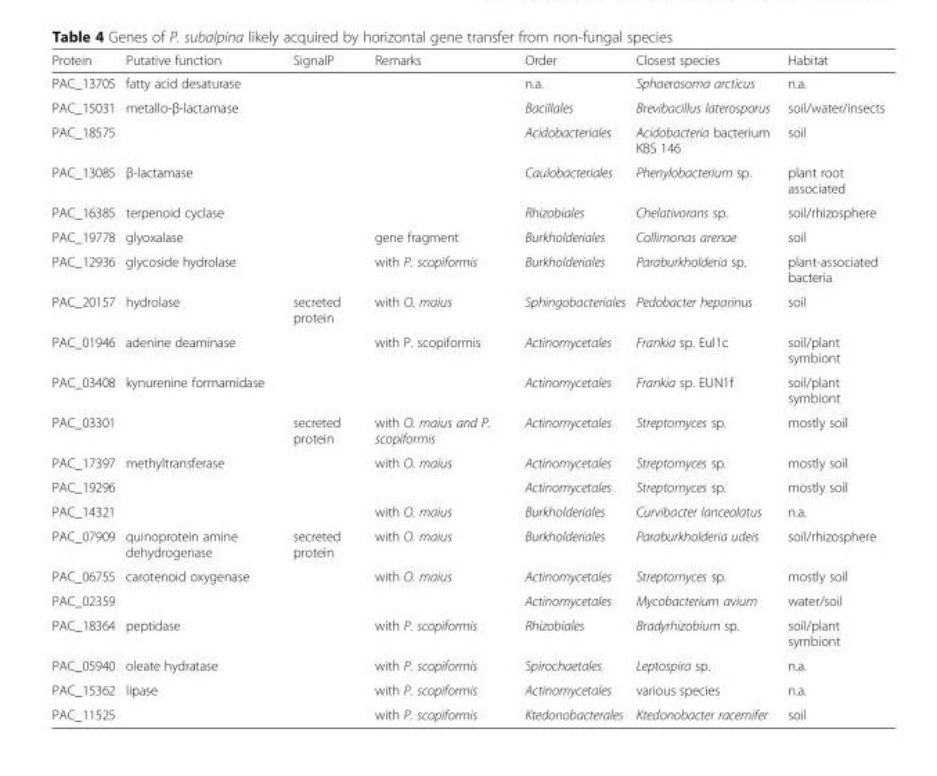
<table><thead><tr><td>Protein</td><td>Putative function</td><td>SignalP</td><td>Remarks</td><td>Order</td><td>Closest species</td><td>Habitat</td></tr></thead><tbody><tr><td>PAC_13705</td><td>fatty acid desaturase</td><td></td><td></td><td>n.a.</td><td>Sphaerosoma arcticus</td><td>n.a.</td></tr><tr><td>PAC_15031</td><td colspan="2">metallo-β-lactamase</td><td></td><td>Bacillales</td><td>Brevibacillus laterosporus</td><td>soil/water/insects</td></tr><tr><td>PAC_18575</td><td></td><td></td><td></td><td>Acidobacteriales</td><td>Acidobacteria bacterium KBS 146</td><td>soil</td></tr><tr><td>PAC_13085</td><td>β-lactamase</td><td></td><td></td><td>Caulobacteriales</td><td>Phenylobacterium sp.</td><td>plant root associated</td></tr><tr><td>PAC_16385</td><td>terpenoid cyclase</td><td></td><td></td><td>Rhizobiales</td><td>Chelativorans sp.</td><td>soil/rhizosphere</td></tr><tr><td>PAC_19778</td><td>glyoxalase</td><td></td><td>gene fragment</td><td>Burkholderiales</td><td>Collimonas arenae</td><td>soil</td></tr><tr><td>PAC_12936</td><td>glycoside hydrolase</td><td></td><td>with P. scopiformis</td><td>Burkholderiales</td><td>Paraburkholderia sp.</td><td>plant-associated bacteria</td></tr><tr><td>PAC_20157</td><td>hydrolase</td><td>secreted protein</td><td>with O. maius</td><td>Sphingobacteriales</td><td>Pedobacter heparinus</td><td>soil</td></tr><tr><td>PAC_01946</td><td>adenine deaminase</td><td></td><td>with P. scopiformis</td><td>Actinomycetales</td><td>Frankia sp. EuI1c</td><td>soil/plant symbiont</td></tr><tr><td>PAC_03408</td><td colspan="2">kynurenine formamidase</td><td></td><td>Actinomycetales</td><td>Frankia sp. EUN1f</td><td>soil/plant symbiont</td></tr><tr><td>PAC_03301</td><td></td><td>secreted protein</td><td>with O. maius and P. scopiformis</td><td>Actinomycetales</td><td>Streptomyces sp.</td><td>mostly soil</td></tr><tr><td>PAC_17397</td><td>methyltransferase</td><td></td><td>with O. maius</td><td>Actinomycetales</td><td>Streptomyces sp.</td><td>mostly soil</td></tr><tr><td>PAC_19296</td><td></td><td></td><td></td><td>Actinomycetales</td><td>Streptomyces sp.</td><td>mostly soil</td></tr><tr><td>PAC_14321</td><td></td><td></td><td>with O. maius</td><td>Burkholderiales</td><td>Curvibacter lanceolatus</td><td>n.a.</td></tr><tr><td>PAC_07909</td><td>quinoprotein amine dehydrogenase</td><td>secreted protein</td><td>with O. maius</td><td>Burkholderiales</td><td>Paraburkholderia udeis</td><td>soil/rhizosphere</td></tr><tr><td>PAC_06755</td><td>carotenoid oxygenase</td><td></td><td>with O. maius</td><td>Actinomycetales</td><td>Streptomyces sp.</td><td>mostly soil</td></tr><tr><td>PAC_02359</td><td></td><td></td><td></td><td>Actinomycetales</td><td>Mycobacterium avium</td><td>water/soil</td></tr><tr><td>PAC_18364</td><td>peptidase</td><td></td><td>with P. scopiformis</td><td>Rhizobiales</td><td>Bradyrhizobium sp.</td><td>soil/plant symbiont</td></tr><tr><td>PAC_05940</td><td>oleate hydratase</td><td></td><td>with P. scopiformis</td><td>Spirochaetales</td><td>Leptospira sp.</td><td>n.a.</td></tr><tr><td>PAC_15362</td><td>lipase</td><td></td><td>with P. scopiformis</td><td>Actinomycetales</td><td>various species</td><td>n.a.</td></tr><tr><td>PAC_11525</td><td></td><td></td><td>with P. scopiformis</td><td>Ktedonobacterales</td><td>Ktedonobacter racemifer</td><td>soil</td></tr></tbody></table>